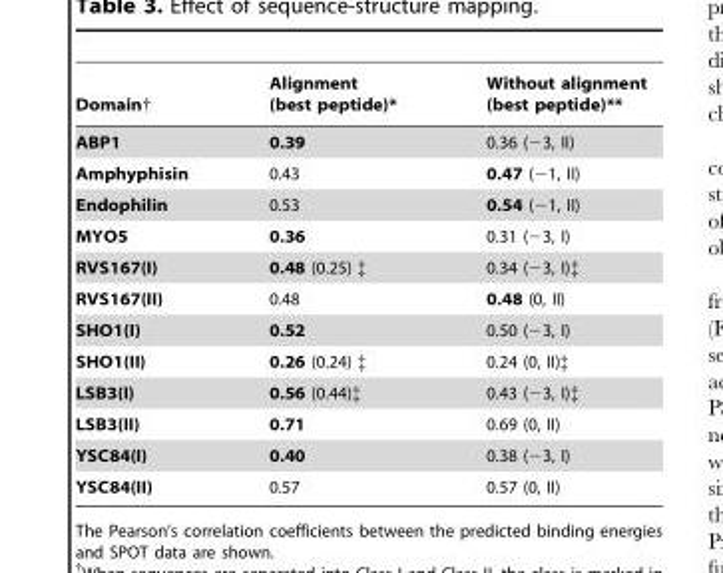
<table><thead><tr><td>Domain†</td><td>Alignment (best peptide)*</td><td>Without alignment (best peptide)**</td></tr></thead><tbody><tr><td>ABP1</td><td>0.39</td><td>0.36 (−3, II)</td></tr><tr><td>Amphyphisin</td><td>0.43</td><td>0.47 (−1, II)</td></tr><tr><td>Endophilin</td><td>0.53</td><td>0.54 (−1, II)</td></tr><tr><td>MYO5</td><td>0.36</td><td>0.31 (−3, I)</td></tr><tr><td>RVS167(I)</td><td>0.48 (0.25) ‡</td><td>0.34 (−3, I)‡</td></tr><tr><td>RVS167(II)</td><td>0.48</td><td>0.48 (0, II)</td></tr><tr><td>SHO1(I)</td><td>0.52</td><td>0.50 (−3, I)</td></tr><tr><td>SHO1(II)</td><td>0.26 (0.24) ‡</td><td>0.24 (0, II)‡</td></tr><tr><td>LSB3(I)</td><td>0.56 (0.44)‡</td><td>0.43 (−3, I)‡</td></tr><tr><td>LSB3(II)</td><td>0.71</td><td>0.69 (0, II)</td></tr><tr><td>YSC84(I)</td><td>0.40</td><td>0.38 (−3, I)</td></tr><tr><td>YSC84(II)</td><td>0.57</td><td>0.57 (0, II)</td></tr></tbody></table>